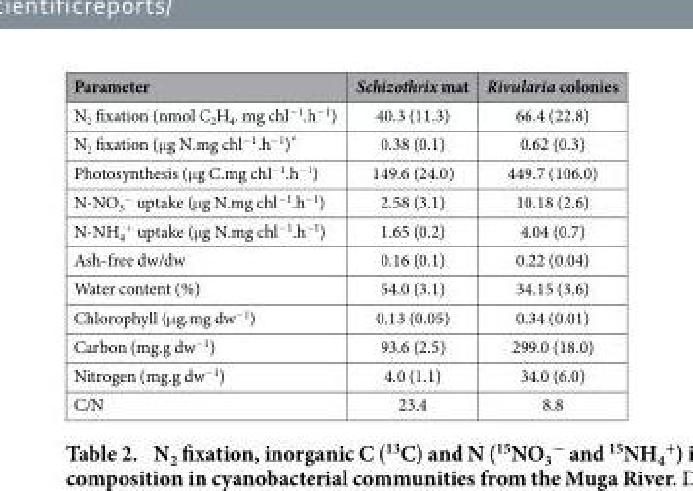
<table><thead><tr><td>Parameter</td><td>Schizothrix mat</td><td>Rivularia colonies</td></tr></thead><tbody><tr><td>N<sub>2</sub> fixation (nmol C<sub>2</sub>H<sub>4</sub>. mg chl<sup>−1</sup>.h<sup>−1</sup>)</td><td>40.3 (11.3)</td><td>66.4 (22.8)</td></tr><tr><td>N<sub>2</sub> fixation (μ g N.mg chl<sup>−1</sup>.h<sup>−1</sup>)*</td><td>0.38 (0.1)</td><td>0.62 (0.3)</td></tr><tr><td>Photosynthesis (μ g C.mg chl<sup>−1</sup>.h<sup>−1</sup>)</td><td>149.6 (24.0)</td><td>449.7 (106.0)</td></tr><tr><td>N-NO<sub>3</sub> <sup>−</sup> uptake (μ g N.mg chl<sup>−1</sup>.h<sup>−1</sup>)</td><td>2.58 (3.1)</td><td>10.18 (2.6)</td></tr><tr><td>N-NH<sub>4</sub> <sup>+</sup> uptake (μ g N.mg chl<sup>−1</sup>.h<sup>−1</sup>)</td><td>1.65 (0.2)</td><td>4.04 (0.7)</td></tr><tr><td>Ash-free dw/dw</td><td>0.16 (0.1)</td><td>0.22 (0.04)</td></tr><tr><td>Water content (%)</td><td>54.0 (3.1)</td><td>34.15 (3.6)</td></tr><tr><td>Chlorophyll (μ g.mg dw<sup>−1</sup>)</td><td>0.13 (0.05)</td><td>0.34 (0.01)</td></tr><tr><td>Carbon (mg.g dw<sup>−1</sup>)</td><td>93.6 (2.5)</td><td>299.0 (18.0)</td></tr><tr><td>Nitrogen (mg.g dw<sup>−1</sup>)</td><td>4.0 (1.1)</td><td>34.0 (6.0)</td></tr><tr><td>C/N</td><td>23.4</td><td>8.8</td></tr></tbody></table>